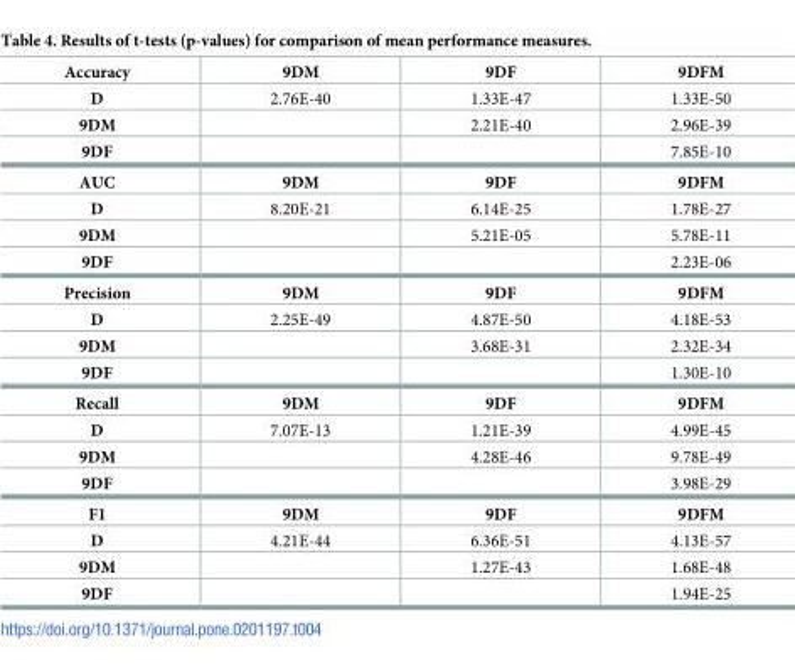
<table><tbody><tr><td>Accuracy</td><td>9DM</td><td>9DF</td><td>9DFM</td></tr><tr><td>D</td><td>2.76E-40</td><td>1.33E-47</td><td>1.33E-50</td></tr><tr><td>9DM</td><td></td><td>2.21E-40</td><td>2.96E-39</td></tr><tr><td>9DF</td><td></td><td></td><td>7.85E-10</td></tr><tr><td>AUC</td><td>9DM</td><td>9DF</td><td>9DFM</td></tr><tr><td>D</td><td>8.20E-21</td><td>6.14E-25</td><td>1.78E-27</td></tr><tr><td>9DM</td><td></td><td>5.21E-05</td><td>5.78E-11</td></tr><tr><td>9DF</td><td></td><td></td><td>2.23E-06</td></tr><tr><td>Precision</td><td>9DM</td><td>9DF</td><td>9DFM</td></tr><tr><td>D</td><td>2.25E-49</td><td>4.87E-50</td><td>4.18E-53</td></tr><tr><td>9DM</td><td></td><td>3.68E-31</td><td>2.32E-34</td></tr><tr><td>9DF</td><td></td><td></td><td>1.30E-10</td></tr><tr><td>Recall</td><td>9DM</td><td>9DF</td><td>9DFM</td></tr><tr><td>D</td><td>7.07E-13</td><td>1.21E-39</td><td>4.99E-45</td></tr><tr><td>9DM</td><td></td><td>4.28E-46</td><td>9.78E-49</td></tr><tr><td>9DF</td><td></td><td></td><td>3.98E-29</td></tr><tr><td>F1</td><td>9DM</td><td>9DF</td><td>9DFM</td></tr><tr><td>D</td><td>4.21E-44</td><td>6.36E-51</td><td>4.13E-57</td></tr><tr><td>9DM</td><td></td><td>1.27E-43</td><td>1.68E-48</td></tr><tr><td>9DF</td><td></td><td></td><td>1.94E-25</td></tr></tbody></table>